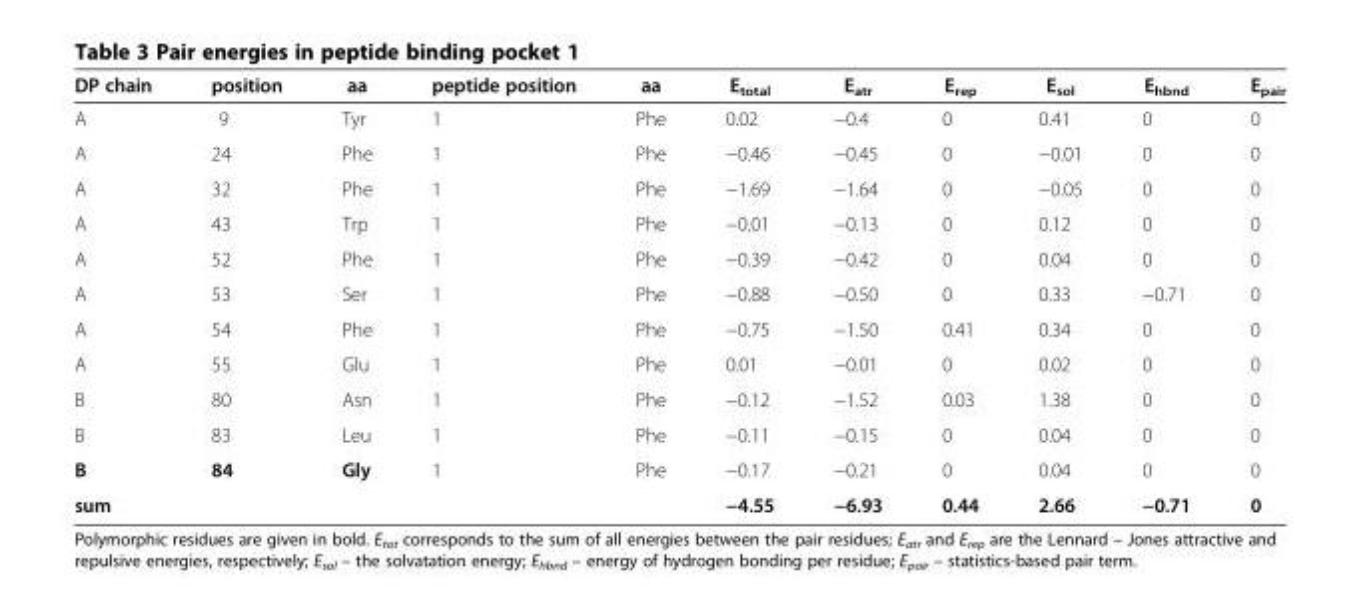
<table><thead><tr><td>DP chain</td><td>position</td><td>aa</td><td>peptide position</td><td>aa</td><td>E<sub>total</sub></td><td>E<sub>atr</sub></td><td>E<sub>rep</sub></td><td>E<sub>sol</sub></td><td>E<sub>hbnd</sub></td><td>E<sub>pair</sub></td></tr></thead><tbody><tr><td>A</td><td>9</td><td>Tyr</td><td>1</td><td>Phe</td><td>0.02</td><td>−0.4</td><td>0</td><td>0.41</td><td>0</td><td>0</td></tr><tr><td>A</td><td>24</td><td>Phe</td><td>1</td><td>Phe</td><td>−0.46</td><td>−0.45</td><td>0</td><td>−0.01</td><td>0</td><td>0</td></tr><tr><td>A</td><td>32</td><td>Phe</td><td>1</td><td>Phe</td><td>−1.69</td><td>−1.64</td><td>0</td><td>−0.05</td><td>0</td><td>0</td></tr><tr><td>A</td><td>43</td><td>Trp</td><td>1</td><td>Phe</td><td>−0.01</td><td>−0.13</td><td>0</td><td>0.12</td><td>0</td><td>0</td></tr><tr><td>A</td><td>52</td><td>Phe</td><td>1</td><td>Phe</td><td>−0.39</td><td>−0.42</td><td>0</td><td>0.04</td><td>0</td><td>0</td></tr><tr><td>A</td><td>53</td><td>Ser</td><td>1</td><td>Phe</td><td>−0.88</td><td>−0.50</td><td>0</td><td>0.33</td><td>−0.71</td><td>0</td></tr><tr><td>A</td><td>54</td><td>Phe</td><td>1</td><td>Phe</td><td>−0.75</td><td>−1.50</td><td>0.41</td><td>0.34</td><td>0</td><td>0</td></tr><tr><td>A</td><td>55</td><td>Glu</td><td>1</td><td>Phe</td><td>0.01</td><td>−0.01</td><td>0</td><td>0.02</td><td>0</td><td>0</td></tr><tr><td>B</td><td>80</td><td>Asn</td><td>1</td><td>Phe</td><td>−0.12</td><td>−1.52</td><td>0.03</td><td>1.38</td><td>0</td><td>0</td></tr><tr><td>B</td><td>83</td><td>Leu</td><td>1</td><td>Phe</td><td>−0.11</td><td>−0.15</td><td>0</td><td>0.04</td><td>0</td><td>0</td></tr><tr><td>B</td><td>84</td><td>Gly</td><td>1</td><td>Phe</td><td>−0.17</td><td>−0.21</td><td>0</td><td>0.04</td><td>0</td><td>0</td></tr><tr><td>sum</td><td></td><td></td><td></td><td></td><td>−4.55</td><td>−6.93</td><td>0.44</td><td>2.66</td><td>−0.71</td><td>0</td></tr></tbody></table>